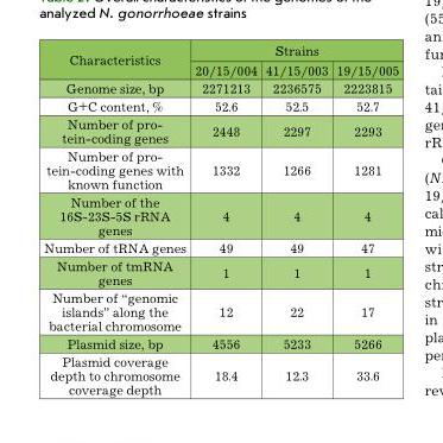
<table><thead><tr><td rowspan="2">Characteristics</td><td colspan="3">Strains</td></tr><tr><td>20/15/004</td><td>41/15/003</td><td>19/15/005</td></tr></thead><tbody><tr><td>Genome size, bp</td><td>2271213</td><td>2236575</td><td>2223815</td></tr><tr><td>G+C content, %</td><td>52.6</td><td>52.5</td><td>52.7</td></tr><tr><td>Number of pro- tein-coding genes</td><td>2448</td><td>2297</td><td>2293</td></tr><tr><td>Number of pro- tein-coding genes with known function</td><td>1332</td><td>1266</td><td>1281</td></tr><tr><td>Number of the 16S-23S-5S rRNA genes</td><td>4</td><td>4</td><td>4</td></tr><tr><td>Number of tRNA genes</td><td>49</td><td>49</td><td>47</td></tr><tr><td>Number of tmRNA genes</td><td>1</td><td>1</td><td>1</td></tr><tr><td>Number of “genomic islands” along the bacterial chromosome</td><td>12</td><td>22</td><td>17</td></tr><tr><td>Plasmid size, bp</td><td>4556</td><td>5233</td><td>5266</td></tr><tr><td>Plasmid coverage depth to chromosome coverage depth</td><td>18.4</td><td>12.3</td><td>33.6</td></tr></tbody></table>